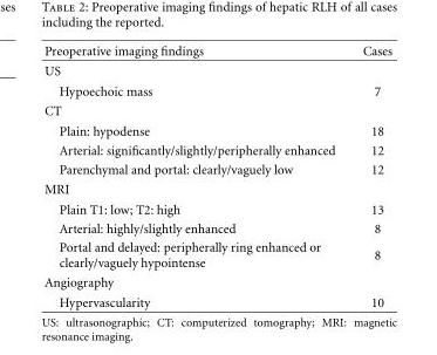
<table><thead><tr><td>Preoperative imaging findings</td><td>Cases</td></tr></thead><tbody><tr><td colspan="2">US</td></tr><tr><td>Hypoechoic mass</td><td>7</td></tr><tr><td colspan="2">CT</td></tr><tr><td>Plain: hypodense</td><td>18</td></tr><tr><td>Arterial: significantly/slightly/peripherally enhanced</td><td>12</td></tr><tr><td>Parenchymal and portal: clearly/vaguely low</td><td>12</td></tr><tr><td colspan="2">MRI</td></tr><tr><td>Plain T1: low; T2: high</td><td>13</td></tr><tr><td>Arterial: highly/slightly enhanced</td><td>8</td></tr><tr><td>Portal and delayed: peripherally ring enhanced or clearly/vaguely hypointense</td><td>8</td></tr><tr><td colspan="2">Angiography</td></tr><tr><td>Hypervascularity</td><td>10</td></tr></tbody></table>